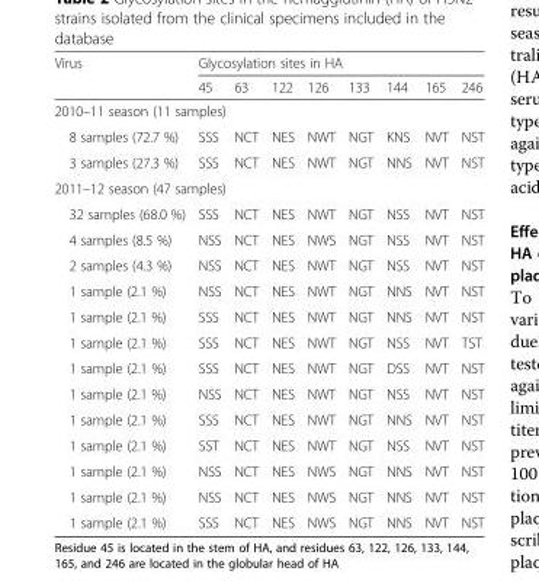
<table><thead><tr><td rowspan="2">Virus</td><td colspan="8">Glycosylation sites in HA</td></tr><tr><td>45</td><td>63</td><td>122</td><td>126</td><td>133</td><td>144</td><td>165</td><td>246</td></tr></thead><tbody><tr><td colspan="9">2010–11 season (11 samples)</td></tr><tr><td>8 samples (72.7 %)</td><td>SSS</td><td>NCT</td><td>NES</td><td>NWT</td><td>NGT</td><td>KNS</td><td>NVT</td><td>NST</td></tr><tr><td>3 samples (27.3 %)</td><td>SSS</td><td>NCT</td><td>NES</td><td>NWT</td><td>NGT</td><td>NNS</td><td>NVT</td><td>NST</td></tr><tr><td colspan="9">2011–12 season (47 samples)</td></tr><tr><td>32 samples (68.0 %)</td><td>SSS</td><td>NCT</td><td>NES</td><td>NWT</td><td>NGT</td><td>NSS</td><td>NVT</td><td>NST</td></tr><tr><td>4 samples (8.5 %)</td><td>NSS</td><td>NCT</td><td>NES</td><td>NWS</td><td>NGT</td><td>NSS</td><td>NVT</td><td>NST</td></tr><tr><td>2 samples (4.3 %)</td><td>NSS</td><td>NCT</td><td>NES</td><td>NWT</td><td>NGT</td><td>NSS</td><td>NVT</td><td>NST</td></tr><tr><td>1 sample (2.1 %)</td><td>NSS</td><td>NCT</td><td>NES</td><td>NWT</td><td>NGT</td><td>NNS</td><td>NVT</td><td>NST</td></tr><tr><td>1 sample (2.1 %)</td><td>SSS</td><td>NCT</td><td>NES</td><td>NWT</td><td>NGT</td><td>NNS</td><td>NVT</td><td>NST</td></tr><tr><td>1 sample (2.1 %)</td><td>SSS</td><td>NCT</td><td>NES</td><td>NWT</td><td>NGT</td><td>NSS</td><td>NVT</td><td>TST</td></tr><tr><td>1 sample (2.1 %)</td><td>SSS</td><td>NCT</td><td>NES</td><td>NWT</td><td>NGT</td><td>DSS</td><td>NVT</td><td>NST</td></tr><tr><td>1 sample (2.1 %)</td><td>NSS</td><td>NCT</td><td>NES</td><td>NWT</td><td>NGT</td><td>NSS</td><td>NVT</td><td>NST</td></tr><tr><td>1 sample (2.1 %)</td><td>SSS</td><td>NCT</td><td>NES</td><td>NWT</td><td>NGT</td><td>NNS</td><td>NVT</td><td>NST</td></tr><tr><td>1 sample (2.1 %)</td><td>SST</td><td>NCT</td><td>NES</td><td>NWT</td><td>NGT</td><td>NSS</td><td>NVT</td><td>NST</td></tr><tr><td>1 sample (2.1 %)</td><td>NSS</td><td>NCT</td><td>NES</td><td>NWS</td><td>NGT</td><td>NNS</td><td>NVT</td><td>NST</td></tr><tr><td>1 sample (2.1 %)</td><td>NSS</td><td>NCT</td><td>NES</td><td>NWS</td><td>NGT</td><td>NNS</td><td>NVT</td><td>NST</td></tr><tr><td>1 sample (2.1 %)</td><td>SSS</td><td>NCT</td><td>NES</td><td>NWS</td><td>NGT</td><td>NNS</td><td>NVT</td><td>NST</td></tr></tbody></table>